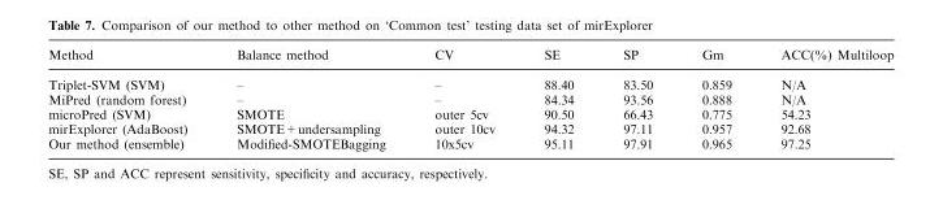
<table><thead><tr><td>Method</td><td>Balance method</td><td>CV</td><td>SE</td><td>SP</td><td>Gm</td><td>ACC(%) Multiloop</td></tr></thead><tbody><tr><td>Triplet-SVM (SVM)</td><td>–</td><td>–</td><td>88.40</td><td>83.50</td><td>0.859</td><td>N/A</td></tr><tr><td>MiPred (random forest)</td><td>–</td><td>–</td><td>84.34</td><td>93.56</td><td>0.888</td><td>N/A</td></tr><tr><td>microPred (SVM)</td><td>SMOTE</td><td>outer 5cv</td><td>90.50</td><td>66.43</td><td>0.775</td><td>54.23</td></tr><tr><td>mirExplorer (AdaBoost)</td><td>SMOTE+undersampling</td><td>outer 10cv</td><td>94.32</td><td>97.11</td><td>0.957</td><td>92.68</td></tr><tr><td>Our method (ensemble)</td><td>Modified-SMOTEBagging</td><td>10x5cv</td><td>95.11</td><td>97.91</td><td>0.965</td><td>97.25</td></tr></tbody></table>